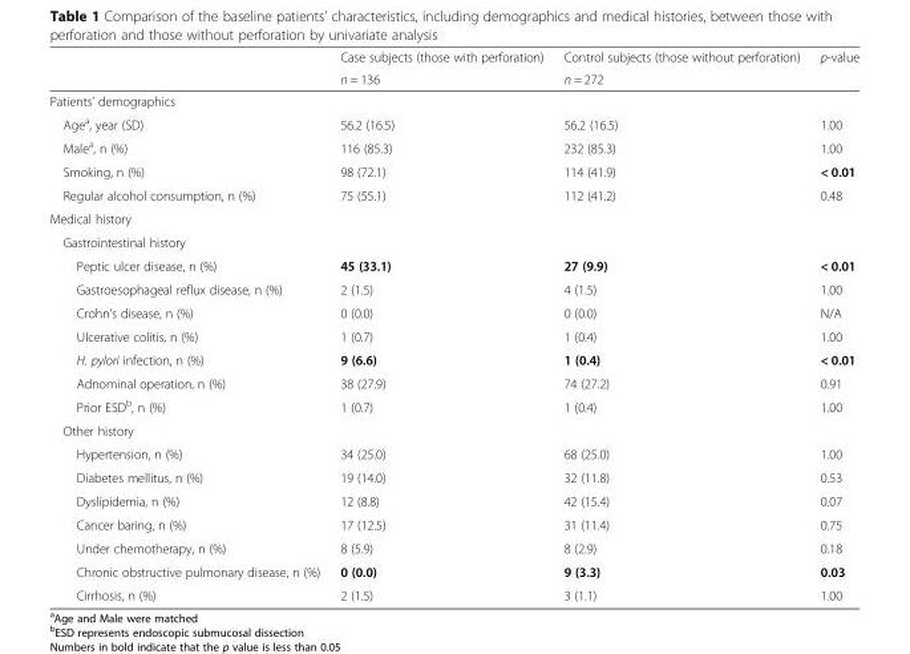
<table><thead><tr><td rowspan="2"></td><td rowspan="2">Case subjects (those with perforation) n = 136</td><td rowspan="2">Control subjects (those without perforation) n = 272</td><td rowspan="2">p-value</td></tr><tr></tr></thead><tbody><tr><td colspan="4">Patients’ demographics</td></tr><tr><td>Age<sup>a</sup>, year (SD)</td><td>56.2 (16.5)</td><td>56.2 (16.5)</td><td>1.00</td></tr><tr><td>Male<sup>a</sup>, n (%)</td><td>116 (85.3)</td><td>232 (85.3)</td><td>1.00</td></tr><tr><td>Smoking, n (%)</td><td>98 (72.1)</td><td>114 (41.9)</td><td>&lt; 0.01</td></tr><tr><td>Regular alcohol consumption, n (%)</td><td>75 (55.1)</td><td>112 (41.2)</td><td>0.48</td></tr><tr><td colspan="4">Medical history</td></tr><tr><td colspan="4">Gastrointestinal history</td></tr><tr><td>Peptic ulcer disease, n (%)</td><td>45 (33.1)</td><td>27 (9.9)</td><td>&lt; 0.01</td></tr><tr><td>Gastroesophageal reflux disease, n (%)</td><td>2 (1.5)</td><td>4 (1.5)</td><td>1.00</td></tr><tr><td>Crohn’s disease, n (%)</td><td>0 (0.0)</td><td>0 (0.0)</td><td>N/A</td></tr><tr><td>Ulcerative colitis, n (%)</td><td>1 (0.7)</td><td>1 (0.4)</td><td>1.00</td></tr><tr><td>H. pylori infection, n (%)</td><td>9 (6.6)</td><td>1 (0.4)</td><td>&lt; 0.01</td></tr><tr><td>Adnominal operation, n (%)</td><td>38 (27.9)</td><td>74 (27.2)</td><td>0.91</td></tr><tr><td>Prior ESD<sup>b</sup>, n (%)</td><td>1 (0.7)</td><td>1 (0.4)</td><td>1.00</td></tr><tr><td colspan="4">Other history</td></tr><tr><td>Hypertension, n (%)</td><td>34 (25.0)</td><td>68 (25.0)</td><td>1.00</td></tr><tr><td>Diabetes mellitus, n (%)</td><td>19 (14.0)</td><td>32 (11.8)</td><td>0.53</td></tr><tr><td>Dyslipidemia, n (%)</td><td>12 (8.8)</td><td>42 (15.4)</td><td>0.07</td></tr><tr><td>Cancer baring, n (%)</td><td>17 (12.5)</td><td>31 (11.4)</td><td>0.75</td></tr><tr><td>Under chemotherapy, n (%)</td><td>8 (5.9)</td><td>8 (2.9)</td><td>0.18</td></tr><tr><td>Chronic obstructive pulmonary disease, n (%)</td><td>0 (0.0)</td><td>9 (3.3)</td><td>0.03</td></tr><tr><td>Cirrhosis, n (%)</td><td>2 (1.5)</td><td>3 (1.1)</td><td>1.00</td></tr></tbody></table>